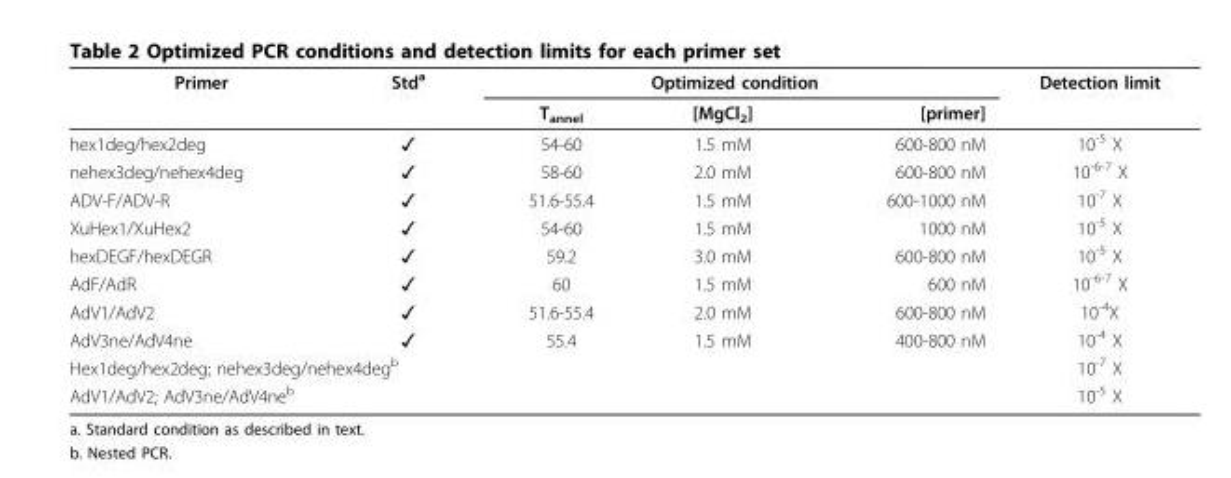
<table><thead><tr><td rowspan="2">Primer</td><td rowspan="2">Std<sup>a</sup></td><td colspan="3">Optimized condition</td><td rowspan="2">Detection limit</td></tr><tr><td>T<sub>annel</sub></td><td>[MgCl<sub>2</sub>]</td><td>[primer]</td></tr></thead><tbody><tr><td>hex1deg/hex2deg</td><td>✓</td><td>54-60</td><td>1.5 mM</td><td>600-800 nM</td><td>10<sup>-5</sup> X</td></tr><tr><td>nehex3deg/nehex4deg</td><td>✓</td><td>58-60</td><td>2.0 mM</td><td>600-800 nM</td><td>10<sup>-6-7</sup> X</td></tr><tr><td>ADV-F/ADV-R</td><td>✓</td><td>51.6-55.4</td><td>1.5 mM</td><td>600-1000 nM</td><td>10<sup>-7</sup> X</td></tr><tr><td>XuHex1/XuHex2</td><td>✓</td><td>54-60</td><td>1.5 mM</td><td>1000 nM</td><td>10<sup>-5</sup> X</td></tr><tr><td>hexDEGF/hexDEGR</td><td>✓</td><td>59.2</td><td>3.0 mM</td><td>600-800 nM</td><td>10<sup>-5</sup> X</td></tr><tr><td>AdF/AdR</td><td>✓</td><td>60</td><td>1.5 mM</td><td>600 nM</td><td>10<sup>-6-7</sup> X</td></tr><tr><td>AdV1/AdV2</td><td>✓</td><td>51.6-55.4</td><td>2.0 mM</td><td>600-800 nM</td><td>10<sup>-4</sup>X</td></tr><tr><td>AdV3ne/AdV4ne</td><td>✓</td><td>55.4</td><td>1.5 mM</td><td>400-800 nM</td><td>10<sup>-4</sup> X</td></tr><tr><td colspan="3">Hex1deg/hex2deg; nehex3deg/nehex4deg<sup>b</sup></td><td></td><td></td><td>10<sup>-7</sup> X</td></tr><tr><td colspan="3">AdV1/AdV2; AdV3ne/AdV4ne<sup>b</sup></td><td></td><td></td><td>10<sup>-5</sup> X</td></tr></tbody></table>